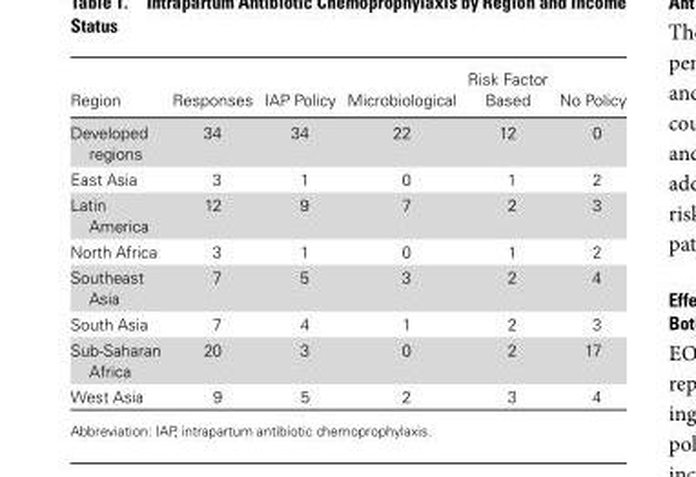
<table><thead><tr><td>Region</td><td>Responses</td><td>IAP Policy</td><td>Microbiological</td><td>Risk Factor Based</td><td>No Policy</td></tr></thead><tbody><tr><td>Developed regions</td><td>34</td><td>34</td><td>22</td><td>12</td><td>0</td></tr><tr><td>East Asia</td><td>3</td><td>1</td><td>0</td><td>1</td><td>2</td></tr><tr><td>Latin America</td><td>12</td><td>9</td><td>7</td><td>2</td><td>3</td></tr><tr><td>North Africa</td><td>3</td><td>1</td><td>0</td><td>1</td><td>2</td></tr><tr><td>Southeast Asia</td><td>7</td><td>5</td><td>3</td><td>2</td><td>4</td></tr><tr><td>South Asia</td><td>7</td><td>4</td><td>1</td><td>2</td><td>3</td></tr><tr><td>Sub-Saharan Africa</td><td>20</td><td>3</td><td>0</td><td>2</td><td>17</td></tr><tr><td>West Asia</td><td>9</td><td>5</td><td>2</td><td>3</td><td>4</td></tr></tbody></table>